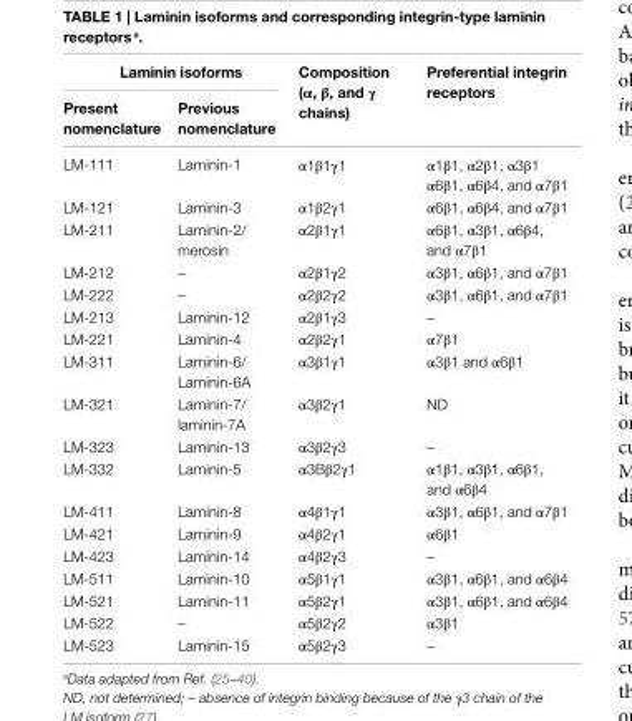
<table><thead><tr><td colspan="2">Laminin isoforms</td><td rowspan="2">Composition (α, β, and γ chains)</td><td rowspan="2">Preferential integrin receptors</td></tr><tr><td>Present nomenclature</td><td>Previous nomenclature</td></tr></thead><tbody><tr><td>LM-111</td><td>Laminin-1</td><td>α1β1γ1</td><td>α1β1, α2β1, α3β1 α6β1, α6β4, and α7β1</td></tr><tr><td>LM-121</td><td>Laminin-3</td><td>α1β2γ1</td><td>α6β1, α6β4, and α7β1</td></tr><tr><td>LM-211</td><td>Laminin-2/ merosin</td><td>α2β1γ1</td><td>α6β1, α3β1, α6β4, and α7β1</td></tr><tr><td>LM-212</td><td>–</td><td>α2β1γ2</td><td>α3β1, α6β1, and α7β1</td></tr><tr><td>LM-222</td><td>–</td><td>α2β2γ2</td><td>α3β1, α6β1, and α7β1</td></tr><tr><td>LM-213</td><td>Laminin-12</td><td>α2β1γ3</td><td>–</td></tr><tr><td>LM-221</td><td>Laminin-4</td><td>α2β2γ1</td><td>α7β1</td></tr><tr><td>LM-311</td><td>Laminin-6/ Laminin-6A</td><td>α3β1γ1</td><td>α3β1 and α6β1</td></tr><tr><td>LM-321</td><td>Laminin-7/ laminin-7A</td><td>α3β2γ1</td><td>ND</td></tr><tr><td>LM-323</td><td>Laminin-13</td><td>α3β2γ3</td><td>–</td></tr><tr><td>LM-332</td><td>Laminin-5</td><td>α3Bβ2γ1</td><td>α1β1, α3β1, α6β1, and α6β4</td></tr><tr><td>LM-411</td><td>Laminin-8</td><td>α4β1γ1</td><td>α3β1, α6β1, and α7β1</td></tr><tr><td>LM-421</td><td>Laminin-9</td><td>α4β2γ1</td><td>α6β1</td></tr><tr><td>LM-423</td><td>Laminin-14</td><td>α4β2γ3</td><td>–</td></tr><tr><td>LM-511</td><td>Laminin-10</td><td>α5β1γ1</td><td>α3β1, α6β1, and α6β4</td></tr><tr><td>LM-521</td><td>Laminin-11</td><td>α5β2γ1</td><td>α3β1, α6β1, and α6β4</td></tr><tr><td>LM-522</td><td>–</td><td>α5β2γ2</td><td>α3β1</td></tr><tr><td>LM-523</td><td>Laminin-15</td><td>α5β2γ3</td><td>–</td></tr></tbody></table>